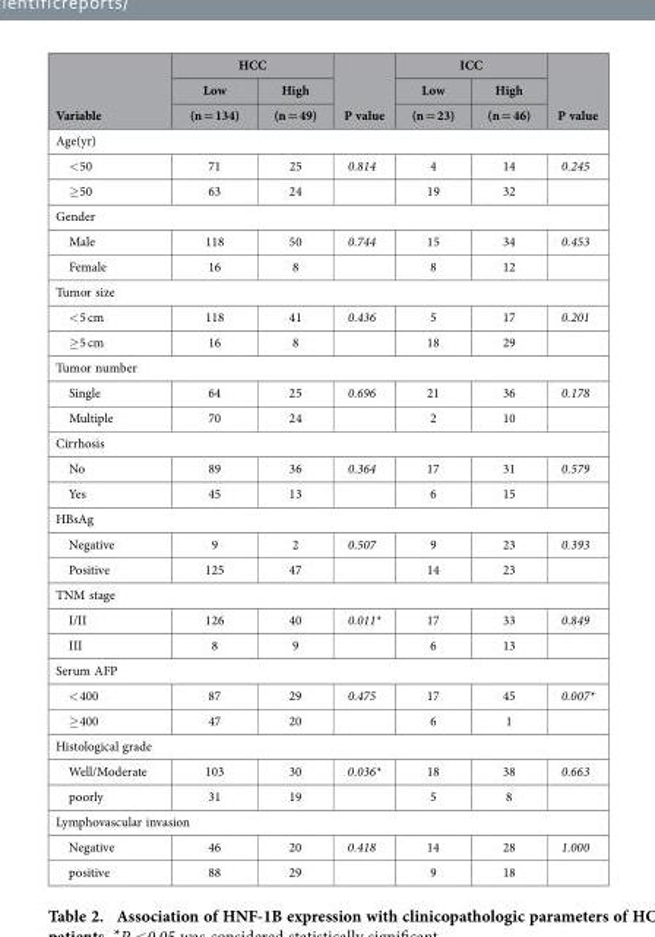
<table><thead><tr><td rowspan="3">Variable</td><td colspan="2">HCC</td><td rowspan="3">P value</td><td colspan="2">ICC</td><td rowspan="3">P value</td></tr><tr><td rowspan="2">Low (n = 134)</td><td rowspan="2">High (n = 49)</td><td rowspan="2">Low (n = 23)</td><td rowspan="2">High (n = 46)</td></tr><tr></tr></thead><tbody><tr><td colspan="7">Age(yr)</td></tr><tr><td>&lt; 50</td><td>71</td><td>25</td><td>0.814</td><td>4</td><td>14</td><td>0.245</td></tr><tr><td>≥ 50</td><td>63</td><td>24</td><td></td><td>19</td><td>32</td><td></td></tr><tr><td colspan="7">Gender</td></tr><tr><td>Male</td><td>118</td><td>50</td><td>0.744</td><td>15</td><td>34</td><td>0.453</td></tr><tr><td>Female</td><td>16</td><td>8</td><td></td><td>8</td><td>12</td><td></td></tr><tr><td colspan="7">Tumor size</td></tr><tr><td>&lt; 5 cm</td><td>118</td><td>41</td><td>0.436</td><td>5</td><td>17</td><td>0.201</td></tr><tr><td>≥ 5 cm</td><td>16</td><td>8</td><td></td><td>18</td><td>29</td><td></td></tr><tr><td colspan="7">Tumor number</td></tr><tr><td>Single</td><td>64</td><td>25</td><td>0.696</td><td>21</td><td>36</td><td>0.178</td></tr><tr><td>Multiple</td><td>70</td><td>24</td><td></td><td>2</td><td>10</td><td></td></tr><tr><td colspan="7">Cirrhosis</td></tr><tr><td>No</td><td>89</td><td>36</td><td>0.364</td><td>17</td><td>31</td><td>0.579</td></tr><tr><td>Yes</td><td>45</td><td>13</td><td></td><td>6</td><td>15</td><td></td></tr><tr><td colspan="7">HBsAg</td></tr><tr><td>Negative</td><td>9</td><td>2</td><td>0.507</td><td>9</td><td>23</td><td>0.393</td></tr><tr><td>Positive</td><td>125</td><td>47</td><td></td><td>14</td><td>23</td><td></td></tr><tr><td colspan="7">TNM stage</td></tr><tr><td>I/II</td><td>126</td><td>40</td><td>0.011*</td><td>17</td><td>33</td><td>0.849</td></tr><tr><td>III</td><td>8</td><td>9</td><td></td><td>6</td><td>13</td><td></td></tr><tr><td colspan="7">Serum AFP</td></tr><tr><td>&lt; 400</td><td>87</td><td>29</td><td>0.475</td><td>17</td><td>45</td><td>0.007*</td></tr><tr><td>≥ 400</td><td>47</td><td>20</td><td></td><td>6</td><td>1</td><td></td></tr><tr><td colspan="7">Histological grade</td></tr><tr><td>Well/Moderate</td><td>103</td><td>30</td><td>0.036*</td><td>18</td><td>38</td><td>0.663</td></tr><tr><td>poorly</td><td>31</td><td>19</td><td></td><td>5</td><td>8</td><td></td></tr><tr><td colspan="7">Lymphovascular invasion</td></tr><tr><td>Negative</td><td>46</td><td>20</td><td>0.418</td><td>14</td><td>28</td><td>1.000</td></tr><tr><td>positive</td><td>88</td><td>29</td><td></td><td>9</td><td>18</td><td></td></tr></tbody></table>